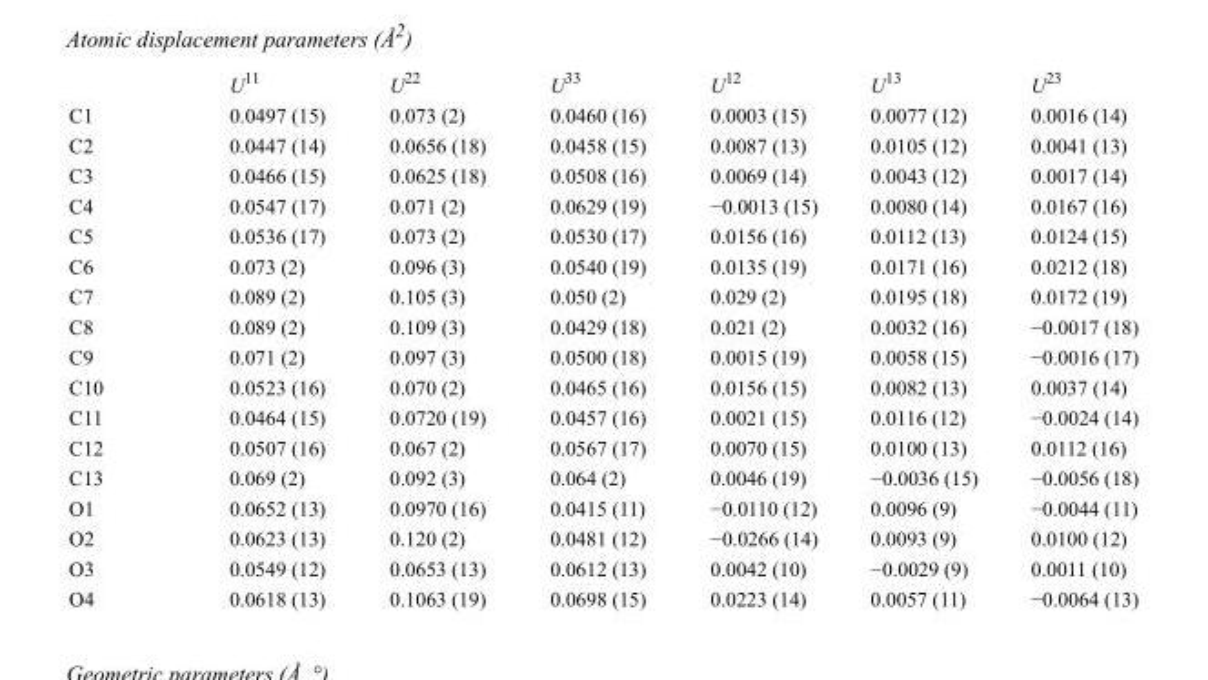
<table><thead><tr><td></td><td>U<sup>11</sup></td><td>U<sup>22</sup></td><td>U<sup>33</sup></td><td>U<sup>12</sup></td><td>U<sup>13</sup></td><td>U<sup>23</sup></td></tr></thead><tbody><tr><td>C1</td><td>0.0497 (15)</td><td>0.073 (2)</td><td>0.0460 (16)</td><td>0.0003 (15)</td><td>0.0077 (12)</td><td>0.0016 (14)</td></tr><tr><td>C2</td><td>0.0447 (14)</td><td>0.0656 (18)</td><td>0.0458 (15)</td><td>0.0087 (13)</td><td>0.0105 (12)</td><td>0.0041 (13)</td></tr><tr><td>C3</td><td>0.0466 (15)</td><td>0.0625 (18)</td><td>0.0508 (16)</td><td>0.0069 (14)</td><td>0.0043 (12)</td><td>0.0017 (14)</td></tr><tr><td>C4</td><td>0.0547 (17)</td><td>0.071 (2)</td><td>0.0629 (19)</td><td>−0.0013 (15)</td><td>0.0080 (14)</td><td>0.0167 (16)</td></tr><tr><td>C5</td><td>0.0536 (17)</td><td>0.073 (2)</td><td>0.0530 (17)</td><td>0.0156 (16)</td><td>0.0112 (13)</td><td>0.0124 (15)</td></tr><tr><td>C6</td><td>0.073 (2)</td><td>0.096 (3)</td><td>0.0540 (19)</td><td>0.0135 (19)</td><td>0.0171 (16)</td><td>0.0212 (18)</td></tr><tr><td>C7</td><td>0.089 (2)</td><td>0.105 (3)</td><td>0.050 (2)</td><td>0.029 (2)</td><td>0.0195 (18)</td><td>0.0172 (19)</td></tr><tr><td>C8</td><td>0.089 (2)</td><td>0.109 (3)</td><td>0.0429 (18)</td><td>0.021 (2)</td><td>0.0032 (16)</td><td>−0.0017 (18)</td></tr><tr><td>C9</td><td>0.071 (2)</td><td>0.097 (3)</td><td>0.0500 (18)</td><td>0.0015 (19)</td><td>0.0058 (15)</td><td>−0.0016 (17)</td></tr><tr><td>C10</td><td>0.0523 (16)</td><td>0.070 (2)</td><td>0.0465 (16)</td><td>0.0156 (15)</td><td>0.0082 (13)</td><td>0.0037 (14)</td></tr><tr><td>C11</td><td>0.0464 (15)</td><td>0.0720 (19)</td><td>0.0457 (16)</td><td>0.0021 (15)</td><td>0.0116 (12)</td><td>−0.0024 (14)</td></tr><tr><td>C12</td><td>0.0507 (16)</td><td>0.067 (2)</td><td>0.0567 (17)</td><td>0.0070 (15)</td><td>0.0100 (13)</td><td>0.0112 (16)</td></tr><tr><td>C13</td><td>0.069 (2)</td><td>0.092 (3)</td><td>0.064 (2)</td><td>0.0046 (19)</td><td>−0.0036 (15)</td><td>−0.0056 (18)</td></tr><tr><td>O1</td><td>0.0652 (13)</td><td>0.0970 (16)</td><td>0.0415 (11)</td><td>−0.0110 (12)</td><td>0.0096 (9)</td><td>−0.0044 (11)</td></tr><tr><td>O2</td><td>0.0623 (13)</td><td>0.120 (2)</td><td>0.0481 (12)</td><td>−0.0266 (14)</td><td>0.0093 (9)</td><td>0.0100 (12)</td></tr><tr><td>O3</td><td>0.0549 (12)</td><td>0.0653 (13)</td><td>0.0612 (13)</td><td>0.0042 (10)</td><td>−0.0029 (9)</td><td>0.0011 (10)</td></tr><tr><td>O4</td><td>0.0618 (13)</td><td>0.1063 (19)</td><td>0.0698 (15)</td><td>0.0223 (14)</td><td>0.0057 (11)</td><td>−0.0064 (13)</td></tr></tbody></table>